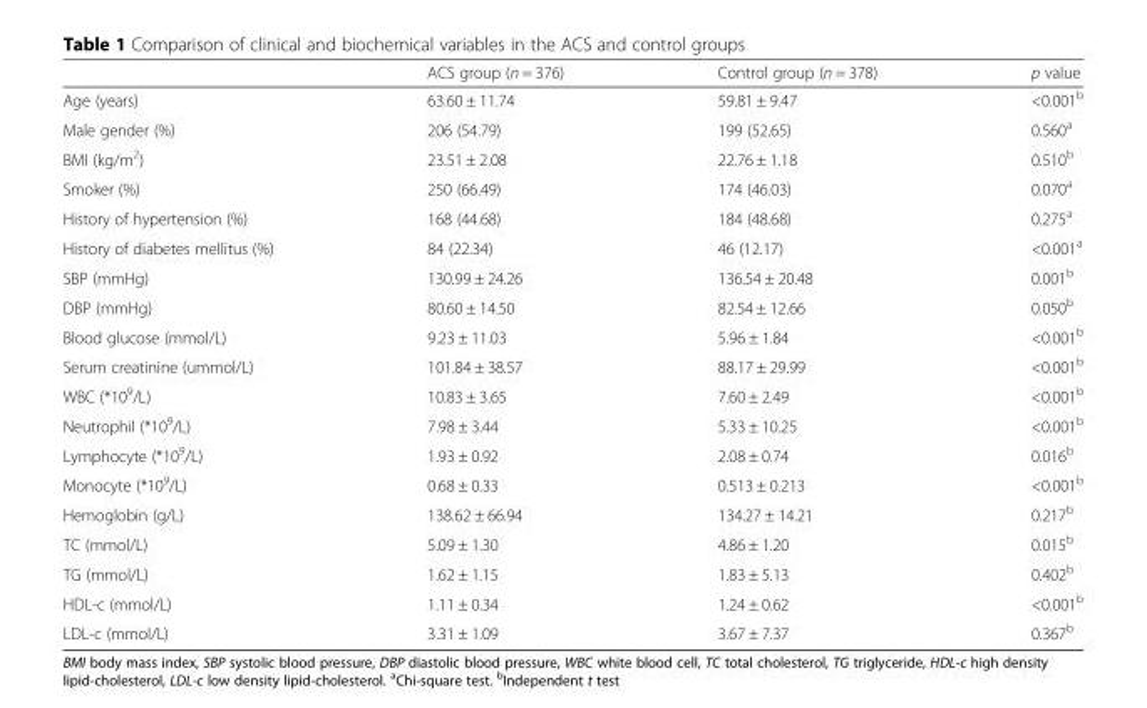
<table><thead><tr><td></td><td>ACS group (n = 376)</td><td>Control group (n = 378)</td><td>p value</td></tr></thead><tbody><tr><td>Age (years)</td><td>63.60 ± 11.74</td><td>59.81 ± 9.47</td><td>&lt;0.001<sup>b</sup></td></tr><tr><td>Male gender (%)</td><td>206 (54.79)</td><td>199 (52.65)</td><td>0.560<sup>a</sup></td></tr><tr><td>BMI (kg/m<sup>2</sup>)</td><td>23.51 ± 2.08</td><td>22.76 ± 1.18</td><td>0.510<sup>b</sup></td></tr><tr><td>Smoker (%)</td><td>250 (66.49)</td><td>174 (46.03)</td><td>0.070<sup>a</sup></td></tr><tr><td>History of hypertension (%)</td><td>168 (44.68)</td><td>184 (48.68)</td><td>0.275<sup>a</sup></td></tr><tr><td>History of diabetes mellitus (%)</td><td>84 (22.34)</td><td>46 (12.17)</td><td>&lt;0.001<sup>a</sup></td></tr><tr><td>SBP (mmHg)</td><td>130.99 ± 24.26</td><td>136.54 ± 20.48</td><td>0.001<sup>b</sup></td></tr><tr><td>DBP (mmHg)</td><td>80.60 ± 14.50</td><td>82.54 ± 12.66</td><td>0.050<sup>b</sup></td></tr><tr><td>Blood glucose (mmol/L)</td><td>9.23 ± 11.03</td><td>5.96 ± 1.84</td><td>&lt;0.001<sup>b</sup></td></tr><tr><td>Serum creatinine (ummol/L)</td><td>101.84 ± 38.57</td><td>88.17 ± 29.99</td><td>&lt;0.001<sup>b</sup></td></tr><tr><td>WBC (*10<sup>9</sup>/L)</td><td>10.83 ± 3.65</td><td>7.60 ± 2.49</td><td>&lt;0.001<sup>b</sup></td></tr><tr><td>Neutrophil (*10<sup>9</sup>/L)</td><td>7.98 ± 3.44</td><td>5.33 ± 10.25</td><td>&lt;0.001<sup>b</sup></td></tr><tr><td>Lymphocyte (*10<sup>9</sup>/L)</td><td>1.93 ± 0.92</td><td>2.08 ± 0.74</td><td>0.016<sup>b</sup></td></tr><tr><td>Monocyte (*10<sup>9</sup>/L)</td><td>0.68 ± 0.33</td><td>0.513 ± 0.213</td><td>&lt;0.001<sup>b</sup></td></tr><tr><td>Hemoglobin (g/L)</td><td>138.62 ± 66.94</td><td>134.27 ± 14.21</td><td>0.217<sup>b</sup></td></tr><tr><td>TC (mmol/L)</td><td>5.09 ± 1.30</td><td>4.86 ± 1.20</td><td>0.015<sup>b</sup></td></tr><tr><td>TG (mmol/L)</td><td>1.62 ± 1.15</td><td>1.83 ± 5.13</td><td>0.402<sup>b</sup></td></tr><tr><td>HDL-c (mmol/L)</td><td>1.11 ± 0.34</td><td>1.24 ± 0.62</td><td>&lt;0.001<sup>b</sup></td></tr><tr><td>LDL-c (mmol/L)</td><td>3.31 ± 1.09</td><td>3.67 ± 7.37</td><td>0.367<sup>b</sup></td></tr></tbody></table>